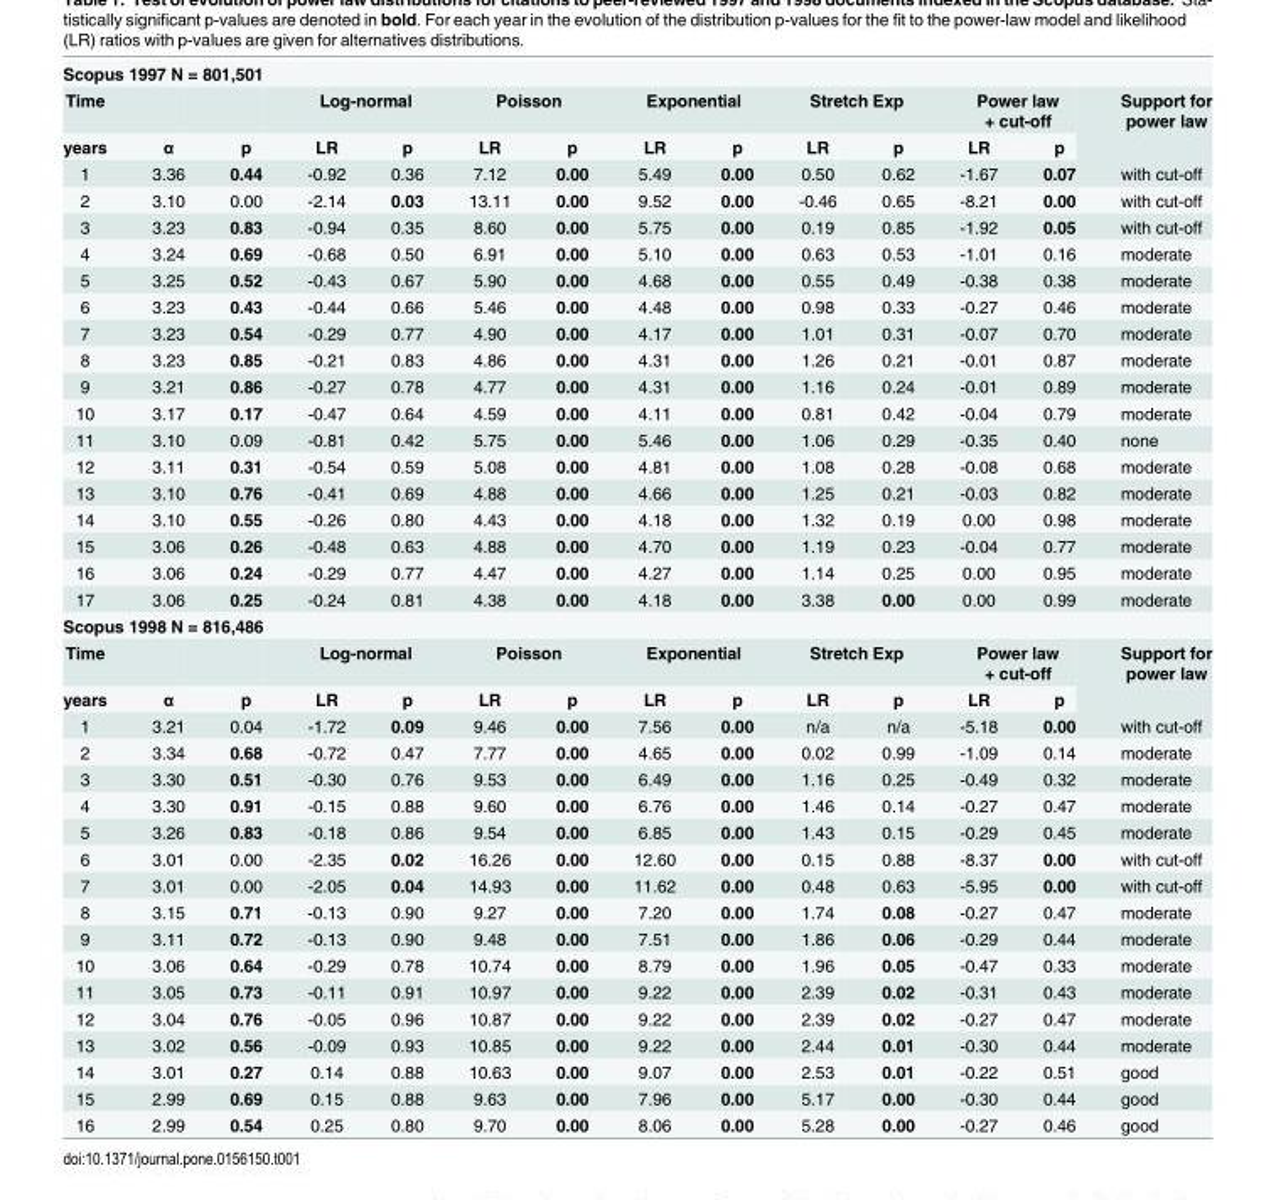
<table><tbody><tr><td colspan="14">Scopus 1997 N = 801,501</td></tr><tr><td>Time</td><td></td><td></td><td colspan="2">Log-normal</td><td colspan="2">Poisson</td><td colspan="2">Exponential</td><td colspan="2">Stretch Exp</td><td colspan="2">Power law + cut-off</td><td rowspan="2">Support for power law</td></tr><tr><td>years</td><td>α</td><td>p</td><td>LR</td><td>p</td><td>LR</td><td>p</td><td>LR</td><td>p</td><td>LR</td><td>p</td><td>LR</td><td>p</td></tr><tr><td>1</td><td>3.36</td><td>0.44</td><td>-0.92</td><td>0.36</td><td>7.12</td><td>0.00</td><td>5.49</td><td>0.00</td><td>0.50</td><td>0.62</td><td>-1.67</td><td>0.07</td><td>with cut-off</td></tr><tr><td>2</td><td>3.10</td><td>0.00</td><td>-2.14</td><td>0.03</td><td>13.11</td><td>0.00</td><td>9.52</td><td>0.00</td><td>-0.46</td><td>0.65</td><td>-8.21</td><td>0.00</td><td>with cut-off</td></tr><tr><td>3</td><td>3.23</td><td>0.83</td><td>-0.94</td><td>0.35</td><td>8.60</td><td>0.00</td><td>5.75</td><td>0.00</td><td>0.19</td><td>0.85</td><td>-1.92</td><td>0.05</td><td>with cut-off</td></tr><tr><td>4</td><td>3.24</td><td>0.69</td><td>-0.68</td><td>0.50</td><td>6.91</td><td>0.00</td><td>5.10</td><td>0.00</td><td>0.63</td><td>0.53</td><td>-1.01</td><td>0.16</td><td>moderate</td></tr><tr><td>5</td><td>3.25</td><td>0.52</td><td>-0.43</td><td>0.67</td><td>5.90</td><td>0.00</td><td>4.68</td><td>0.00</td><td>0.55</td><td>0.49</td><td>-0.38</td><td>0.38</td><td>moderate</td></tr><tr><td>6</td><td>3.23</td><td>0.43</td><td>-0.44</td><td>0.66</td><td>5.46</td><td>0.00</td><td>4.48</td><td>0.00</td><td>0.98</td><td>0.33</td><td>-0.27</td><td>0.46</td><td>moderate</td></tr><tr><td>7</td><td>3.23</td><td>0.54</td><td>-0.29</td><td>0.77</td><td>4.90</td><td>0.00</td><td>4.17</td><td>0.00</td><td>1.01</td><td>0.31</td><td>-0.07</td><td>0.70</td><td>moderate</td></tr><tr><td>8</td><td>3.23</td><td>0.85</td><td>-0.21</td><td>0.83</td><td>4.86</td><td>0.00</td><td>4.31</td><td>0.00</td><td>1.26</td><td>0.21</td><td>-0.01</td><td>0.87</td><td>moderate</td></tr><tr><td>9</td><td>3.21</td><td>0.86</td><td>-0.27</td><td>0.78</td><td>4.77</td><td>0.00</td><td>4.31</td><td>0.00</td><td>1.16</td><td>0.24</td><td>-0.01</td><td>0.89</td><td>moderate</td></tr><tr><td>10</td><td>3.17</td><td>0.17</td><td>-0.47</td><td>0.64</td><td>4.59</td><td>0.00</td><td>4.11</td><td>0.00</td><td>0.81</td><td>0.42</td><td>-0.04</td><td>0.79</td><td>moderate</td></tr><tr><td>11</td><td>3.10</td><td>0.09</td><td>-0.81</td><td>0.42</td><td>5.75</td><td>0.00</td><td>5.46</td><td>0.00</td><td>1.06</td><td>0.29</td><td>-0.35</td><td>0.40</td><td>none</td></tr><tr><td>12</td><td>3.11</td><td>0.31</td><td>-0.54</td><td>0.59</td><td>5.08</td><td>0.00</td><td>4.81</td><td>0.00</td><td>1.08</td><td>0.28</td><td>-0.08</td><td>0.68</td><td>moderate</td></tr><tr><td>13</td><td>3.10</td><td>0.76</td><td>-0.41</td><td>0.69</td><td>4.88</td><td>0.00</td><td>4.66</td><td>0.00</td><td>1.25</td><td>0.21</td><td>-0.03</td><td>0.82</td><td>moderate</td></tr><tr><td>14</td><td>3.10</td><td>0.55</td><td>-0.26</td><td>0.80</td><td>4.43</td><td>0.00</td><td>4.18</td><td>0.00</td><td>1.32</td><td>0.19</td><td>0.00</td><td>0.98</td><td>moderate</td></tr><tr><td>15</td><td>3.06</td><td>0.26</td><td>-0.48</td><td>0.63</td><td>4.88</td><td>0.00</td><td>4.70</td><td>0.00</td><td>1.19</td><td>0.23</td><td>-0.04</td><td>0.77</td><td>moderate</td></tr><tr><td>16</td><td>3.06</td><td>0.24</td><td>-0.29</td><td>0.77</td><td>4.47</td><td>0.00</td><td>4.27</td><td>0.00</td><td>1.14</td><td>0.25</td><td>0.00</td><td>0.95</td><td>moderate</td></tr><tr><td>17</td><td>3.06</td><td>0.25</td><td>-0.24</td><td>0.81</td><td>4.38</td><td>0.00</td><td>4.18</td><td>0.00</td><td>3.38</td><td>0.00</td><td>0.00</td><td>0.99</td><td>moderate</td></tr><tr><td colspan="14">Scopus 1998 N = 816,486</td></tr><tr><td>Time</td><td></td><td></td><td colspan="2">Log-normal</td><td colspan="2">Poisson</td><td colspan="2">Exponential</td><td colspan="2">Stretch Exp</td><td colspan="2">Power law + cut-off</td><td rowspan="2">Support for power law</td></tr><tr><td>years</td><td>α</td><td>p</td><td>LR</td><td>p</td><td>LR</td><td>p</td><td>LR</td><td>p</td><td>LR</td><td>p</td><td>LR</td><td>p</td></tr><tr><td>1</td><td>3.21</td><td>0.04</td><td>-1.72</td><td>0.09</td><td>9.46</td><td>0.00</td><td>7.56</td><td>0.00</td><td>n/a</td><td>n/a</td><td>-5.18</td><td>0.00</td><td>with cut-off</td></tr><tr><td>2</td><td>3.34</td><td>0.68</td><td>-0.72</td><td>0.47</td><td>7.77</td><td>0.00</td><td>4.65</td><td>0.00</td><td>0.02</td><td>0.99</td><td>-1.09</td><td>0.14</td><td>moderate</td></tr><tr><td>3</td><td>3.30</td><td>0.51</td><td>-0.30</td><td>0.76</td><td>9.53</td><td>0.00</td><td>6.49</td><td>0.00</td><td>1.16</td><td>0.25</td><td>-0.49</td><td>0.32</td><td>moderate</td></tr><tr><td>4</td><td>3.30</td><td>0.91</td><td>-0.15</td><td>0.88</td><td>9.60</td><td>0.00</td><td>6.76</td><td>0.00</td><td>1.46</td><td>0.14</td><td>-0.27</td><td>0.47</td><td>moderate</td></tr><tr><td>5</td><td>3.26</td><td>0.83</td><td>-0.18</td><td>0.86</td><td>9.54</td><td>0.00</td><td>6.85</td><td>0.00</td><td>1.43</td><td>0.15</td><td>-0.29</td><td>0.45</td><td>moderate</td></tr><tr><td>6</td><td>3.01</td><td>0.00</td><td>-2.35</td><td>0.02</td><td>16.26</td><td>0.00</td><td>12.60</td><td>0.00</td><td>0.15</td><td>0.88</td><td>-8.37</td><td>0.00</td><td>with cut-off</td></tr><tr><td>7</td><td>3.01</td><td>0.00</td><td>-2.05</td><td>0.04</td><td>14.93</td><td>0.00</td><td>11.62</td><td>0.00</td><td>0.48</td><td>0.63</td><td>-5.95</td><td>0.00</td><td>with cut-off</td></tr><tr><td>8</td><td>3.15</td><td>0.71</td><td>-0.13</td><td>0.90</td><td>9.27</td><td>0.00</td><td>7.20</td><td>0.00</td><td>1.74</td><td>0.08</td><td>-0.27</td><td>0.47</td><td>moderate</td></tr><tr><td>9</td><td>3.11</td><td>0.72</td><td>-0.13</td><td>0.90</td><td>9.48</td><td>0.00</td><td>7.51</td><td>0.00</td><td>1.86</td><td>0.06</td><td>-0.29</td><td>0.44</td><td>moderate</td></tr><tr><td>10</td><td>3.06</td><td>0.64</td><td>-0.29</td><td>0.78</td><td>10.74</td><td>0.00</td><td>8.79</td><td>0.00</td><td>1.96</td><td>0.05</td><td>-0.47</td><td>0.33</td><td>moderate</td></tr><tr><td>11</td><td>3.05</td><td>0.73</td><td>-0.11</td><td>0.91</td><td>10.97</td><td>0.00</td><td>9.22</td><td>0.00</td><td>2.39</td><td>0.02</td><td>-0.31</td><td>0.43</td><td>moderate</td></tr><tr><td>12</td><td>3.04</td><td>0.76</td><td>-0.05</td><td>0.96</td><td>10.87</td><td>0.00</td><td>9.22</td><td>0.00</td><td>2.39</td><td>0.02</td><td>-0.27</td><td>0.47</td><td>moderate</td></tr><tr><td>13</td><td>3.02</td><td>0.56</td><td>-0.09</td><td>0.93</td><td>10.85</td><td>0.00</td><td>9.22</td><td>0.00</td><td>2.44</td><td>0.01</td><td>-0.30</td><td>0.44</td><td>moderate</td></tr><tr><td>14</td><td>3.01</td><td>0.27</td><td>0.14</td><td>0.88</td><td>10.63</td><td>0.00</td><td>9.07</td><td>0.00</td><td>2.53</td><td>0.01</td><td>-0.22</td><td>0.51</td><td>good</td></tr><tr><td>15</td><td>2.99</td><td>0.69</td><td>0.15</td><td>0.88</td><td>9.63</td><td>0.00</td><td>7.96</td><td>0.00</td><td>5.17</td><td>0.00</td><td>-0.30</td><td>0.44</td><td>good</td></tr><tr><td>16</td><td>2.99</td><td>0.54</td><td>0.25</td><td>0.80</td><td>9.70</td><td>0.00</td><td>8.06</td><td>0.00</td><td>5.28</td><td>0.00</td><td>-0.27</td><td>0.46</td><td>good</td></tr></tbody></table>